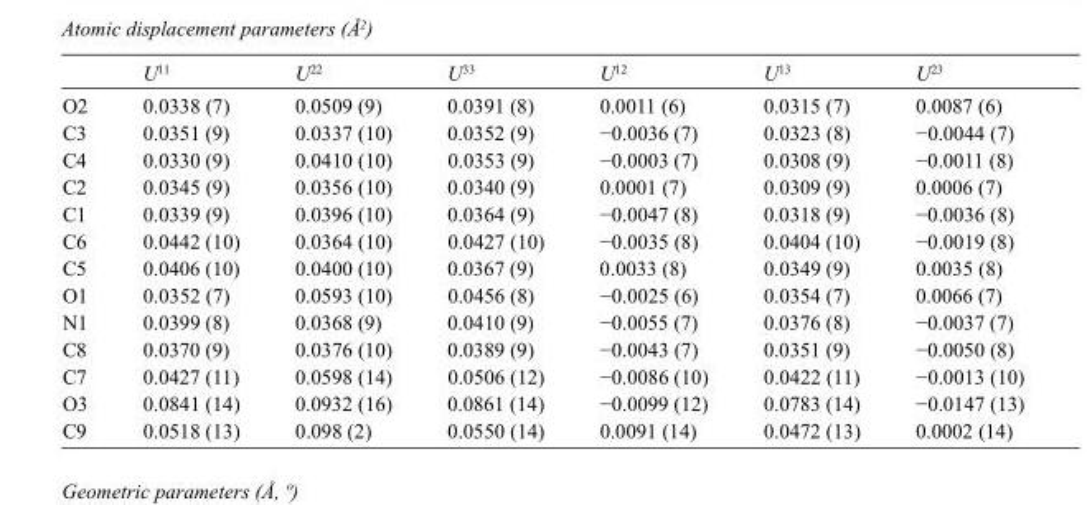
<table><thead><tr><td></td><td>U<sup>11</sup></td><td>U<sup>22</sup></td><td>U<sup>33</sup></td><td>U<sup>12</sup></td><td>U<sup>13</sup></td><td>U<sup>23</sup></td></tr></thead><tbody><tr><td>O2</td><td>0.0338 (7)</td><td>0.0509 (9)</td><td>0.0391 (8)</td><td>0.0011 (6)</td><td>0.0315 (7)</td><td>0.0087 (6)</td></tr><tr><td>C3</td><td>0.0351 (9)</td><td>0.0337 (10)</td><td>0.0352 (9)</td><td>−0.0036 (7)</td><td>0.0323 (8)</td><td>−0.0044 (7)</td></tr><tr><td>C4</td><td>0.0330 (9)</td><td>0.0410 (10)</td><td>0.0353 (9)</td><td>−0.0003 (7)</td><td>0.0308 (9)</td><td>−0.0011 (8)</td></tr><tr><td>C2</td><td>0.0345 (9)</td><td>0.0356 (10)</td><td>0.0340 (9)</td><td>0.0001 (7)</td><td>0.0309 (9)</td><td>0.0006 (7)</td></tr><tr><td>C1</td><td>0.0339 (9)</td><td>0.0396 (10)</td><td>0.0364 (9)</td><td>−0.0047 (8)</td><td>0.0318 (9)</td><td>−0.0036 (8)</td></tr><tr><td>C6</td><td>0.0442 (10)</td><td>0.0364 (10)</td><td>0.0427 (10)</td><td>−0.0035 (8)</td><td>0.0404 (10)</td><td>−0.0019 (8)</td></tr><tr><td>C5</td><td>0.0406 (10)</td><td>0.0400 (10)</td><td>0.0367 (9)</td><td>0.0033 (8)</td><td>0.0349 (9)</td><td>0.0035 (8)</td></tr><tr><td>O1</td><td>0.0352 (7)</td><td>0.0593 (10)</td><td>0.0456 (8)</td><td>−0.0025 (6)</td><td>0.0354 (7)</td><td>0.0066 (7)</td></tr><tr><td>N1</td><td>0.0399 (8)</td><td>0.0368 (9)</td><td>0.0410 (9)</td><td>−0.0055 (7)</td><td>0.0376 (8)</td><td>−0.0037 (7)</td></tr><tr><td>C8</td><td>0.0370 (9)</td><td>0.0376 (10)</td><td>0.0389 (9)</td><td>−0.0043 (7)</td><td>0.0351 (9)</td><td>−0.0050 (8)</td></tr><tr><td>C7</td><td>0.0427 (11)</td><td>0.0598 (14)</td><td>0.0506 (12)</td><td>−0.0086 (10)</td><td>0.0422 (11)</td><td>−0.0013 (10)</td></tr><tr><td>O3</td><td>0.0841 (14)</td><td>0.0932 (16)</td><td>0.0861 (14)</td><td>−0.0099 (12)</td><td>0.0783 (14)</td><td>−0.0147 (13)</td></tr><tr><td>C9</td><td>0.0518 (13)</td><td>0.098 (2)</td><td>0.0550 (14)</td><td>0.0091 (14)</td><td>0.0472 (13)</td><td>0.0002 (14)</td></tr></tbody></table>